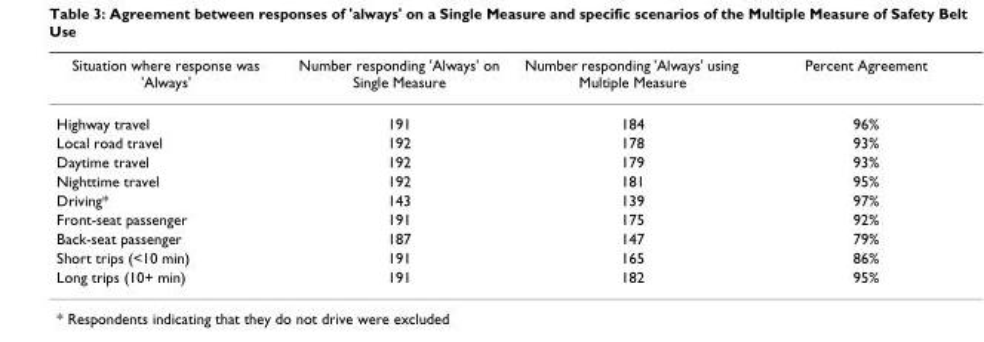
<table><thead><tr><td>Situation where response was &#x27;Always&#x27;</td><td>Number responding &#x27;Always&#x27; on Single Measure</td><td>Number responding &#x27;Always&#x27; using Multiple Measure</td><td>Percent Agreement</td></tr></thead><tbody><tr><td>Highway travel</td><td>191</td><td>184</td><td>96%</td></tr><tr><td>Local road travel</td><td>192</td><td>178</td><td>93%</td></tr><tr><td>Daytime travel</td><td>192</td><td>179</td><td>93%</td></tr><tr><td>Nighttime travel</td><td>192</td><td>181</td><td>95%</td></tr><tr><td>Driving*</td><td>143</td><td>139</td><td>97%</td></tr><tr><td>Front-seat passenger</td><td>191</td><td>175</td><td>92%</td></tr><tr><td>Back-seat passenger</td><td>187</td><td>147</td><td>79%</td></tr><tr><td>Short trips (&lt;10 min)</td><td>191</td><td>165</td><td>86%</td></tr><tr><td>Long trips (10+ min)</td><td>191</td><td>182</td><td>95%</td></tr></tbody></table>